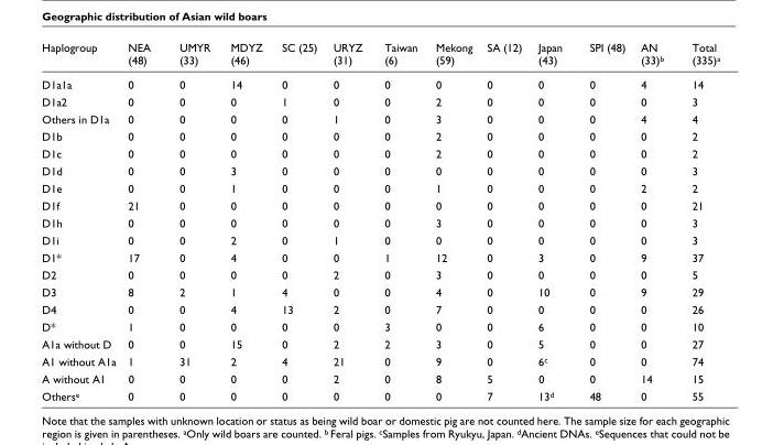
<table><thead><tr><td>Haplogroup</td><td>NEA (48)</td><td>UMYR (33)</td><td>MDYZ (46)</td><td>SC (25)</td><td>URYZ (31)</td><td>Taiwan (6)</td><td>Mekong (59)</td><td>SA (12)</td><td>Japan (43)</td><td>SPI (48)</td><td>AN (33)<sup>b</sup></td><td>Total (335)<sup>a</sup></td></tr></thead><tbody><tr><td>D1a1a</td><td>0</td><td>0</td><td>14</td><td>0</td><td>0</td><td>0</td><td>0</td><td>0</td><td>0</td><td>0</td><td>4</td><td>14</td></tr><tr><td>D1a2</td><td>0</td><td>0</td><td>0</td><td>1</td><td>0</td><td>0</td><td>2</td><td>0</td><td>0</td><td>0</td><td>0</td><td>3</td></tr><tr><td>Others in D1a</td><td>0</td><td>0</td><td>0</td><td>0</td><td>1</td><td>0</td><td>3</td><td>0</td><td>0</td><td>0</td><td>4</td><td>4</td></tr><tr><td>D1b</td><td>0</td><td>0</td><td>0</td><td>0</td><td>0</td><td>0</td><td>2</td><td>0</td><td>0</td><td>0</td><td>0</td><td>2</td></tr><tr><td>D1c</td><td>0</td><td>0</td><td>0</td><td>0</td><td>0</td><td>0</td><td>2</td><td>0</td><td>0</td><td>0</td><td>0</td><td>2</td></tr><tr><td>D1d</td><td>0</td><td>0</td><td>3</td><td>0</td><td>0</td><td>0</td><td>0</td><td>0</td><td>0</td><td>0</td><td>0</td><td>3</td></tr><tr><td>D1e</td><td>0</td><td>0</td><td>1</td><td>0</td><td>0</td><td>0</td><td>1</td><td>0</td><td>0</td><td>0</td><td>2</td><td>2</td></tr><tr><td>D1f</td><td>21</td><td>0</td><td>0</td><td>0</td><td>0</td><td>0</td><td>0</td><td>0</td><td>0</td><td>0</td><td>0</td><td>21</td></tr><tr><td>D1h</td><td>0</td><td>0</td><td>0</td><td>0</td><td>0</td><td>0</td><td>3</td><td>0</td><td>0</td><td>0</td><td>0</td><td>3</td></tr><tr><td>D1i</td><td>0</td><td>0</td><td>2</td><td>0</td><td>1</td><td>0</td><td>0</td><td>0</td><td>0</td><td>0</td><td>0</td><td>3</td></tr><tr><td>D1*</td><td>17</td><td>0</td><td>4</td><td>0</td><td>0</td><td>1</td><td>12</td><td>0</td><td>3</td><td>0</td><td>9</td><td>37</td></tr><tr><td>D2</td><td>0</td><td>0</td><td>0</td><td>0</td><td>2</td><td>0</td><td>3</td><td>0</td><td>0</td><td>0</td><td>0</td><td>5</td></tr><tr><td>D3</td><td>8</td><td>2</td><td>1</td><td>4</td><td>0</td><td>0</td><td>4</td><td>0</td><td>10</td><td>0</td><td>9</td><td>29</td></tr><tr><td>D4</td><td>0</td><td>0</td><td>4</td><td>13</td><td>2</td><td>0</td><td>7</td><td>0</td><td>0</td><td>0</td><td>0</td><td>26</td></tr><tr><td>D*</td><td>1</td><td>0</td><td>0</td><td>0</td><td>0</td><td>3</td><td>0</td><td>0</td><td>6</td><td>0</td><td>0</td><td>10</td></tr><tr><td>A1a without D</td><td>0</td><td>0</td><td>15</td><td>0</td><td>2</td><td>2</td><td>3</td><td>0</td><td>5</td><td>0</td><td>0</td><td>27</td></tr><tr><td>A1 without A1a</td><td>1</td><td>31</td><td>2</td><td>4</td><td>21</td><td>0</td><td>9</td><td>0</td><td>6<sup>c</sup></td><td>0</td><td>0</td><td>74</td></tr><tr><td>A without A1</td><td>0</td><td>0</td><td>0</td><td>0</td><td>2</td><td>0</td><td>8</td><td>5</td><td>0</td><td>0</td><td>14</td><td>15</td></tr><tr><td>Others<sup>e</sup></td><td>0</td><td>0</td><td>0</td><td>0</td><td>0</td><td>0</td><td>0</td><td>7</td><td>13<sup>d</sup></td><td>48</td><td>0</td><td>55</td></tr></tbody></table>